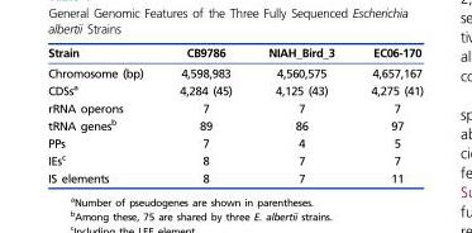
<table><thead><tr><td>Strain</td><td>CB9786</td><td>NIAH_Bird_3</td><td>EC06-170</td></tr></thead><tbody><tr><td>Chromosome (bp)</td><td>4,598,983</td><td>4,560,575</td><td>4,657,167</td></tr><tr><td>CDSs<sup>a</sup></td><td>4,284 (45)</td><td>4,125 (43)</td><td>4,275 (41)</td></tr><tr><td>rRNA operons</td><td>7</td><td>7</td><td>7</td></tr><tr><td>tRNA genes<sup>b</sup></td><td>89</td><td>86</td><td>97</td></tr><tr><td>PPs</td><td>7</td><td>4</td><td>5</td></tr><tr><td>IEs<sup>c</sup></td><td>8</td><td>7</td><td>7</td></tr><tr><td>IS elements</td><td>8</td><td>7</td><td>11</td></tr></tbody></table>